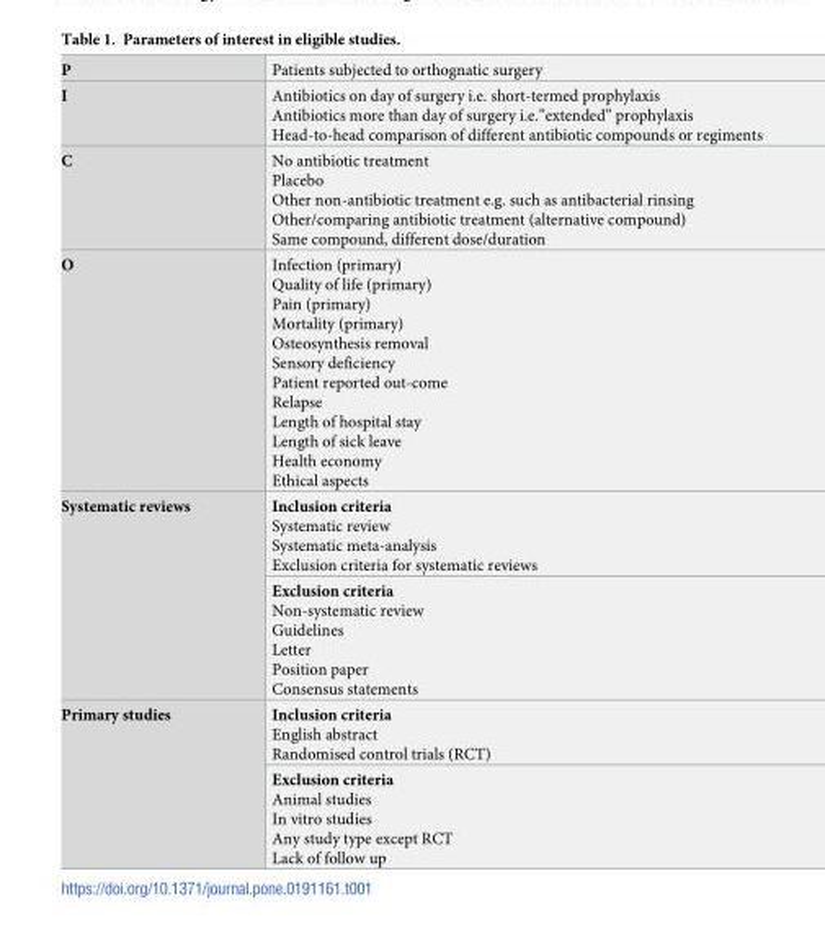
<table><tbody><tr><td>P</td><td>Patients subjected to orthognatic surgery</td></tr><tr><td>I</td><td>Antibiotics on day of surgery i.e. short-termed prophylaxis Antibiotics more than day of surgery i.e.”extended” prophylaxis Head-to-head comparison of different antibiotic compounds or regiments</td></tr><tr><td>C</td><td>No antibiotic treatment Placebo Other non-antibiotic treatment e.g. such as antibacterial rinsing Other/comparing antibiotic treatment (alternative compound) Same compound, different dose/duration</td></tr><tr><td>O</td><td>Infection (primary) Quality of life (primary) Pain (primary) Mortality (primary) Osteosynthesis removal Sensory deficiency Patient reported out-come Relapse Length of hospital stay Length of sick leave Health economy Ethical aspects</td></tr><tr><td rowspan="2">Systematic reviews</td><td>Inclusion criteria Systematic review Systematic meta-analysis Exclusion criteria for systematic reviews</td></tr><tr><td>Exclusion criteria Non-systematic review Guidelines Letter Position paper Consensus statements</td></tr><tr><td rowspan="2">Primary studies</td><td>Inclusion criteria English abstract Randomised control trials (RCT)</td></tr><tr><td>Exclusion criteria Animal studies In vitro studies Any study type except RCT Lack of follow up</td></tr></tbody></table>